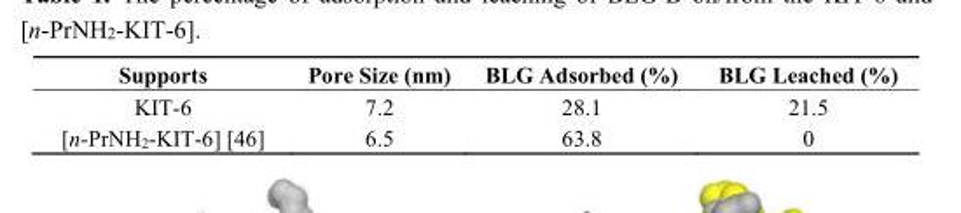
<table><thead><tr><td>Supports</td><td>Pore Size (nm)</td><td>BLG Adsorbed (%)</td><td>BLG Leached (%)</td></tr></thead><tbody><tr><td>KIT-6</td><td>7.2</td><td>28.1</td><td>21.5</td></tr><tr><td>[n-PrNH<sub>2</sub>-KIT-6] [46]</td><td>6.5</td><td>63.8</td><td>0</td></tr></tbody></table>